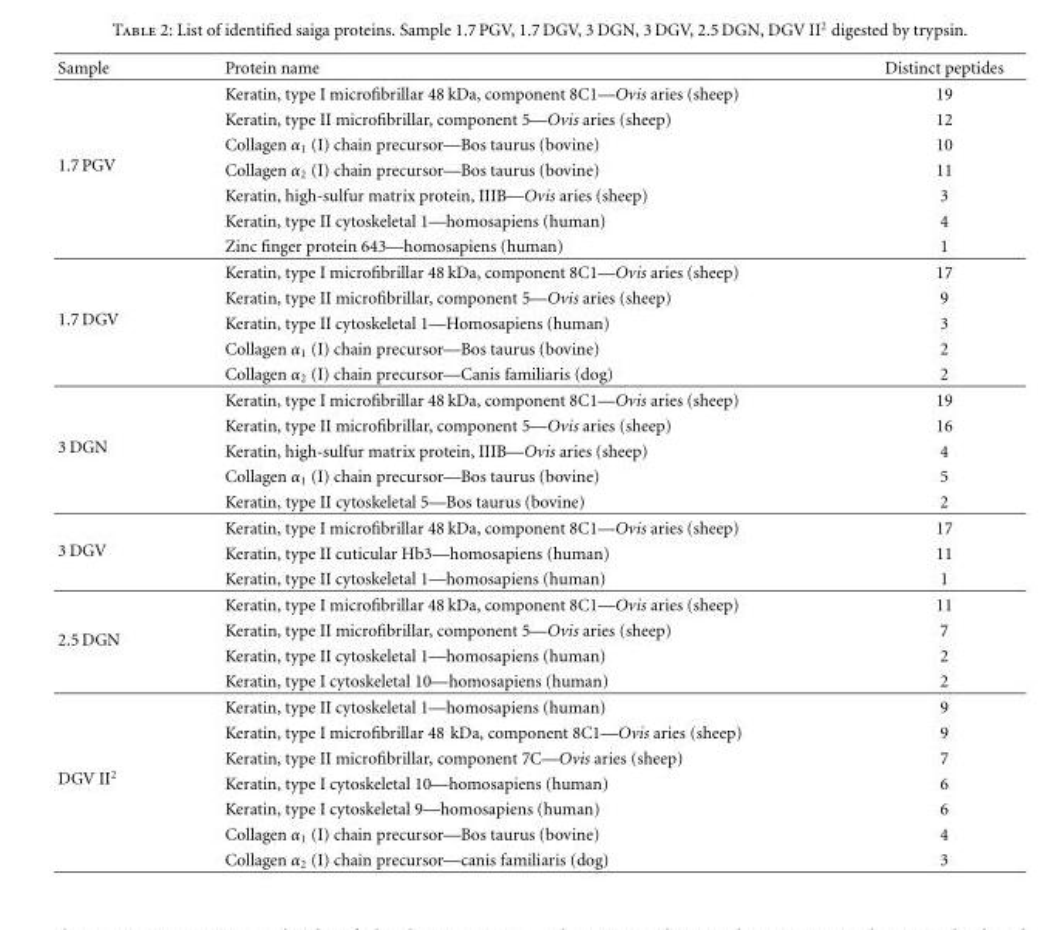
<table><thead><tr><td>Sample</td><td>Protein name</td><td>Distinct peptides</td></tr></thead><tbody><tr><td rowspan="7">1.7 PGV</td><td>Keratin, type I microfibrillar 48 kDa, component 8C1—Ovis aries (sheep)</td><td>19</td></tr><tr><td>Keratin, type II microfibrillar, component 5—Ovis aries (sheep)</td><td>12</td></tr><tr><td>Collagen α<sub>1</sub> (I) chain precursor—Bos taurus (bovine)</td><td>10</td></tr><tr><td>Collagen α<sub>2</sub> (I) chain precursor—Bos taurus (bovine)</td><td>11</td></tr><tr><td>Keratin, high-sulfur matrix protein, IIIB—Ovis aries (sheep)</td><td>3</td></tr><tr><td>Keratin, type II cytoskeletal 1—homosapiens (human)</td><td>4</td></tr><tr><td>Zinc finger protein 643—homosapiens (human)</td><td>1</td></tr><tr><td rowspan="5">1.7 DGV</td><td>Keratin, type I microfibrillar 48 kDa, component 8C1—Ovis aries (sheep)</td><td>17</td></tr><tr><td>Keratin, type II microfibrillar, component 5—Ovis aries (sheep)</td><td>9</td></tr><tr><td>Keratin, type II cytoskeletal 1—Homosapiens (human)</td><td>3</td></tr><tr><td>Collagen α<sub>1</sub> (I) chain precursor—Bos taurus (bovine)</td><td>2</td></tr><tr><td>Collagen α<sub>2</sub> (I) chain precursor—Canis familiaris (dog)</td><td>2</td></tr><tr><td rowspan="5">3 DGN</td><td>Keratin, type I microfibrillar 48 kDa, component 8C1—Ovis aries (sheep)</td><td>19</td></tr><tr><td>Keratin, type II microfibrillar, component 5—Ovis aries (sheep)</td><td>16</td></tr><tr><td>Keratin, high-sulfur matrix protein, IIIB—Ovis aries (sheep)</td><td>4</td></tr><tr><td>Collagen α<sub>1</sub> (I) chain precursor—Bos taurus (bovine)</td><td>5</td></tr><tr><td>Keratin, type II cytoskeletal 5—Bos taurus (bovine)</td><td>2</td></tr><tr><td rowspan="3">3 DGV</td><td>Keratin, type I microfibrillar 48 kDa, component 8C1—Ovis aries (sheep)</td><td>17</td></tr><tr><td>Keratin, type II cuticular Hb3—homosapiens (human)</td><td>11</td></tr><tr><td>Keratin, type II cytoskeletal 1—homosapiens (human)</td><td>1</td></tr><tr><td rowspan="4">2.5 DGN</td><td>Keratin, type I microfibrillar 48 kDa, component 8C1—Ovis aries (sheep)</td><td>11</td></tr><tr><td>Keratin, type II microfibrillar, component 5—Ovis aries (sheep)</td><td>7</td></tr><tr><td>Keratin, type II cytoskeletal 1—homosapiens (human)</td><td>2</td></tr><tr><td>Keratin, type I cytoskeletal 10—homosapiens (human)</td><td>2</td></tr><tr><td rowspan="7">DGV II<sup>2</sup></td><td>Keratin, type II cytoskeletal 1—homosapiens (human)</td><td>9</td></tr><tr><td>Keratin, type I microfibrillar 48 kDa, component 8C1—Ovis aries (sheep)</td><td>9</td></tr><tr><td>Keratin, type II microfibrillar, component 7C—Ovis aries (sheep)</td><td>7</td></tr><tr><td>Keratin, type I cytoskeletal 10—homosapiens (human)</td><td>6</td></tr><tr><td>Keratin, type I cytoskeletal 9—homosapiens (human)</td><td>6</td></tr><tr><td>Collagen α<sub>1</sub> (I) chain precursor—Bos taurus (bovine)</td><td>4</td></tr><tr><td>Collagen α<sub>2</sub> (I) chain precursor—canis familiaris (dog)</td><td>3</td></tr></tbody></table>